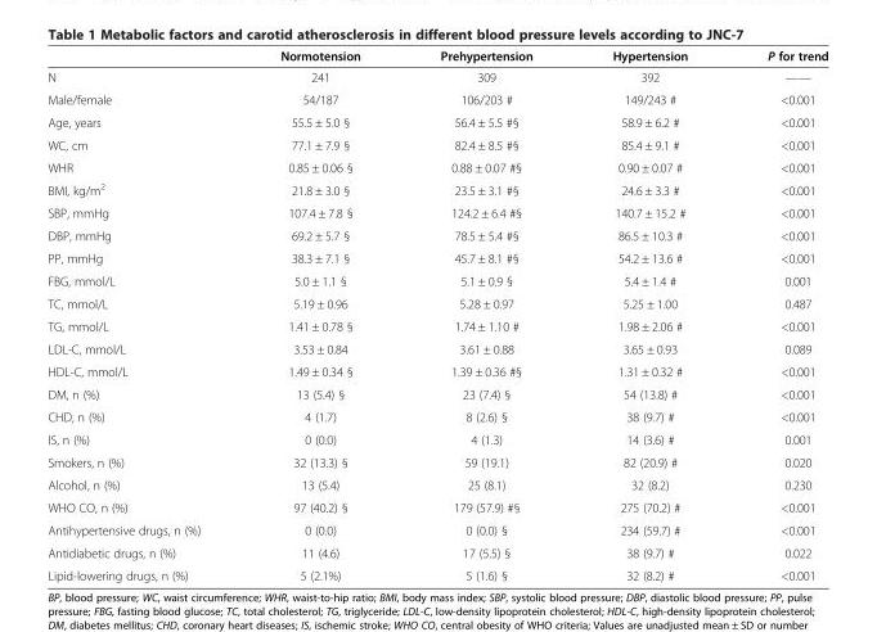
<table><thead><tr><td></td><td>Normotension</td><td>Prehypertension</td><td>Hypertension</td><td>P for trend</td></tr></thead><tbody><tr><td>N</td><td>241</td><td>309</td><td>392</td><td>——</td></tr><tr><td>Male/female</td><td>54/187</td><td>106/203 #</td><td>149/243 #</td><td>&lt;0.001</td></tr><tr><td>Age, years</td><td>55.5 ± 5.0 §</td><td>56.4 ± 5.5 #§</td><td>58.9 ± 6.2 #</td><td>&lt;0.001</td></tr><tr><td>WC, cm</td><td>77.1 ± 7.9 §</td><td>82.4 ± 8.5 #§</td><td>85.4 ± 9.1 #</td><td>&lt;0.001</td></tr><tr><td>WHR</td><td>0.85 ± 0.06 §</td><td>0.88 ± 0.07 #§</td><td>0.90 ± 0.07 #</td><td>&lt;0.001</td></tr><tr><td>BMI, kg/m<sup>2</sup></td><td>21.8 ± 3.0 §</td><td>23.5 ± 3.1 #§</td><td>24.6 ± 3.3 #</td><td>&lt;0.001</td></tr><tr><td>SBP, mmHg</td><td>107.4 ± 7.8 §</td><td>124.2 ± 6.4 #§</td><td>140.7 ± 15.2 #</td><td>&lt;0.001</td></tr><tr><td>DBP, mmHg</td><td>69.2 ± 5.7 §</td><td>78.5 ± 5.4 #§</td><td>86.5 ± 10.3 #</td><td>&lt;0.001</td></tr><tr><td>PP, mmHg</td><td>38.3 ± 7.1 §</td><td>45.7 ± 8.1 #§</td><td>54.2 ± 13.6 #</td><td>&lt;0.001</td></tr><tr><td>FBG, mmol/L</td><td>5.0 ± 1.1 §</td><td>5.1 ± 0.9 §</td><td>5.4 ± 1.4 #</td><td>0.001</td></tr><tr><td>TC, mmol/L</td><td>5.19 ± 0.96</td><td>5.28 ± 0.97</td><td>5.25 ± 1.00</td><td>0.487</td></tr><tr><td>TG, mmol/L</td><td>1.41 ± 0.78 §</td><td>1.74 ± 1.10 #</td><td>1.98 ± 2.06 #</td><td>&lt;0.001</td></tr><tr><td>LDL-C, mmol/L</td><td>3.53 ± 0.84</td><td>3.61 ± 0.88</td><td>3.65 ± 0.93</td><td>0.089</td></tr><tr><td>HDL-C, mmol/L</td><td>1.49 ± 0.34 §</td><td>1.39 ± 0.36 #§</td><td>1.31 ± 0.32 #</td><td>&lt;0.001</td></tr><tr><td>DM, n (%)</td><td>13 (5.4) §</td><td>23 (7.4) §</td><td>54 (13.8) #</td><td>&lt;0.001</td></tr><tr><td>CHD, n (%)</td><td>4 (1.7)</td><td>8 (2.6) §</td><td>38 (9.7) #</td><td>&lt;0.001</td></tr><tr><td>IS, n (%)</td><td>0 (0.0)</td><td>4 (1.3)</td><td>14 (3.6) #</td><td>0.001</td></tr><tr><td>Smokers, n (%)</td><td>32 (13.3) §</td><td>59 (19.1)</td><td>82 (20.9) #</td><td>0.020</td></tr><tr><td>Alcohol, n (%)</td><td>13 (5.4)</td><td>25 (8.1)</td><td>32 (8.2)</td><td>0.230</td></tr><tr><td>WHO CO, n (%)</td><td>97 (40.2) §</td><td>179 (57.9) #§</td><td>275 (70.2) #</td><td>&lt;0.001</td></tr><tr><td>Antihypertensive drugs, n (%)</td><td>0 (0.0)</td><td>0 (0.0) §</td><td>234 (59.7) #</td><td>&lt;0.001</td></tr><tr><td>Antidiabetic drugs, n (%)</td><td>11 (4.6)</td><td>17 (5.5) §</td><td>38 (9.7) #</td><td>0.022</td></tr><tr><td>Lipid-lowering drugs, n (%)</td><td>5 (2.1%)</td><td>5 (1.6) §</td><td>32 (8.2) #</td><td>&lt;0.001</td></tr></tbody></table>